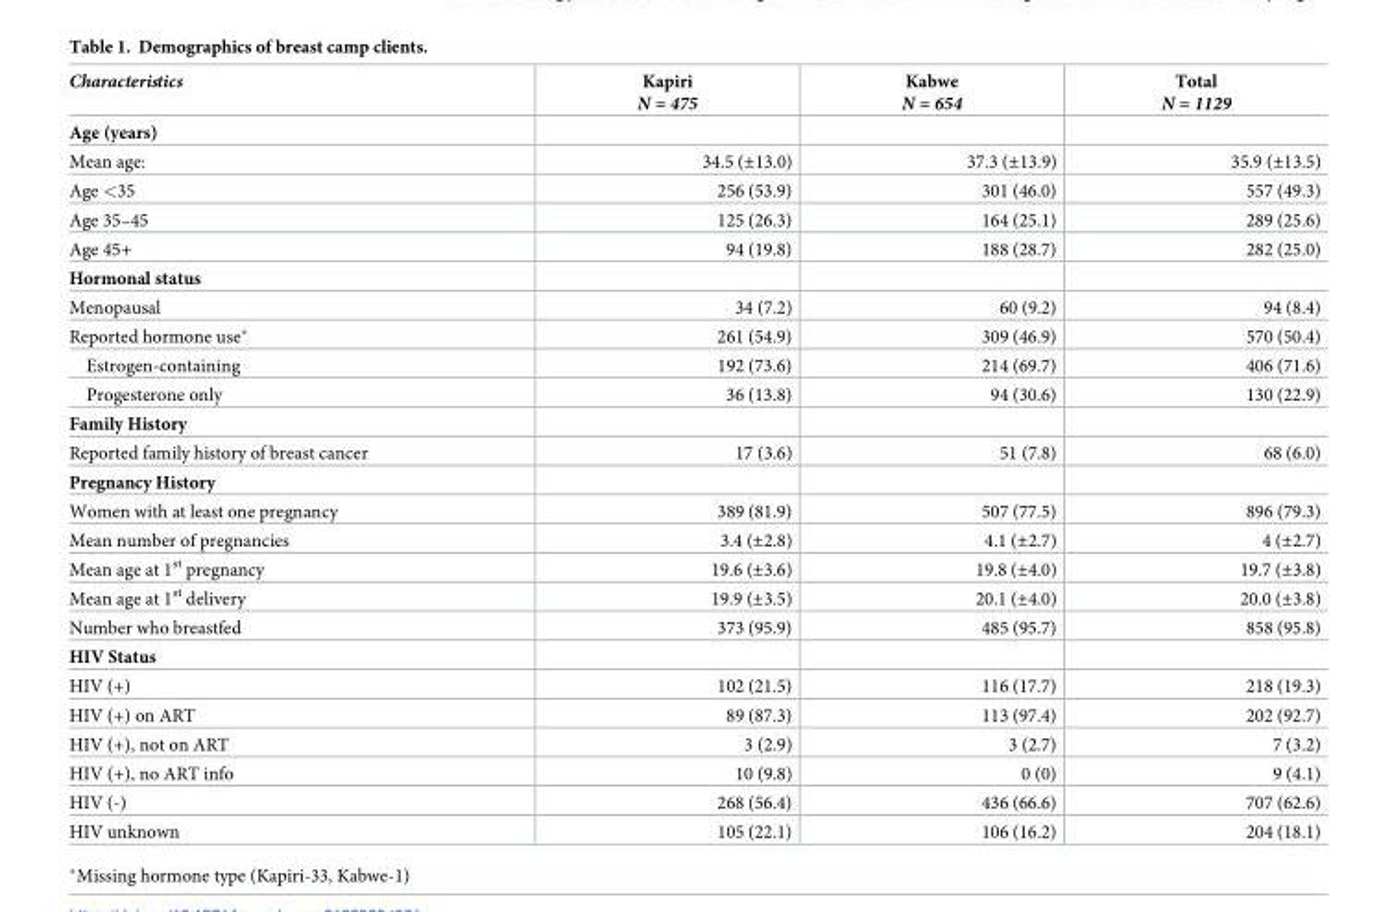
<table><thead><tr><td>Characteristics</td><td>Kapiri N = 475</td><td>Kabwe N = 654</td><td>Total N = 1129</td></tr></thead><tbody><tr><td colspan="4">Age (years)</td></tr><tr><td>Mean age:</td><td>34.5 (±13.0)</td><td>37.3 (±13.9)</td><td>35.9 (±13.5)</td></tr><tr><td>Age &lt;35</td><td>256 (53.9)</td><td>301 (46.0)</td><td>557 (49.3)</td></tr><tr><td>Age 35–45</td><td>125 (26.3)</td><td>164 (25.1)</td><td>289 (25.6)</td></tr><tr><td>Age 45+</td><td>94 (19.8)</td><td>188 (28.7)</td><td>282 (25.0)</td></tr><tr><td colspan="4">Hormonal status</td></tr><tr><td>Menopausal</td><td>34 (7.2)</td><td>60 (9.2)</td><td>94 (8.4)</td></tr><tr><td>Reported hormone use*</td><td>261 (54.9)</td><td>309 (46.9)</td><td>570 (50.4)</td></tr><tr><td>Estrogen-containing</td><td>192 (73.6)</td><td>214 (69.7)</td><td>406 (71.6)</td></tr><tr><td>Progesterone only</td><td>36 (13.8)</td><td>94 (30.6)</td><td>130 (22.9)</td></tr><tr><td colspan="4">Family History</td></tr><tr><td>Reported family history of breast cancer</td><td>17 (3.6)</td><td>51 (7.8)</td><td>68 (6.0)</td></tr><tr><td colspan="4">Pregnancy History</td></tr><tr><td>Women with at least one pregnancy</td><td>389 (81.9)</td><td>507 (77.5)</td><td>896 (79.3)</td></tr><tr><td>Mean number of pregnancies</td><td>3.4 (±2.8)</td><td>4.1 (±2.7)</td><td>4 (±2.7)</td></tr><tr><td>Mean age at 1<sup>st</sup> pregnancy</td><td>19.6 (±3.6)</td><td>19.8 (±4.0)</td><td>19.7 (±3.8)</td></tr><tr><td>Mean age at 1<sup>st</sup> delivery</td><td>19.9 (±3.5)</td><td>20.1 (±4.0)</td><td>20.0 (±3.8)</td></tr><tr><td>Number who breastfed</td><td>373 (95.9)</td><td>485 (95.7)</td><td>858 (95.8)</td></tr><tr><td colspan="4">HIV Status</td></tr><tr><td>HIV (+)</td><td>102 (21.5)</td><td>116 (17.7)</td><td>218 (19.3)</td></tr><tr><td>HIV (+) on ART</td><td>89 (87.3)</td><td>113 (97.4)</td><td>202 (92.7)</td></tr><tr><td>HIV (+), not on ART</td><td>3 (2.9)</td><td>3 (2.7)</td><td>7 (3.2)</td></tr><tr><td>HIV (+), no ART info</td><td>10 (9.8)</td><td>0 (0)</td><td>9 (4.1)</td></tr><tr><td>HIV (-)</td><td>268 (56.4)</td><td>436 (66.6)</td><td>707 (62.6)</td></tr><tr><td>HIV unknown</td><td>105 (22.1)</td><td>106 (16.2)</td><td>204 (18.1)</td></tr></tbody></table>